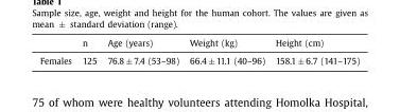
<table><thead><tr><td></td><td>n</td><td>Age (years)</td><td>Weight (kg)</td><td>Height (cm)</td></tr></thead><tbody><tr><td>Females</td><td>125</td><td>76.8 ± 7.4 (53–98)</td><td>66.4 ± 11.1 (40–96)</td><td>158.1 ± 6.7 (141–175)</td></tr></tbody></table>